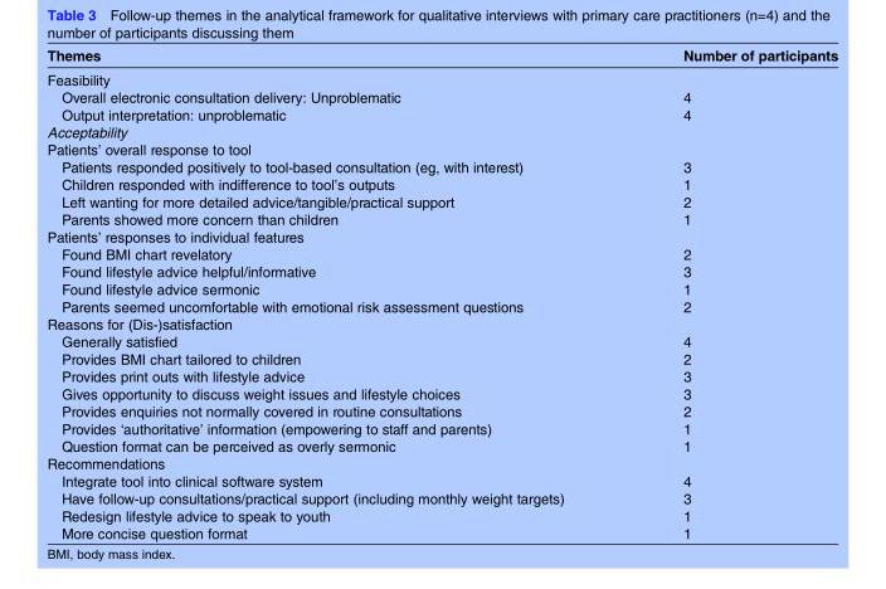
<table><thead><tr><td>Themes</td><td>Number of participants</td></tr></thead><tbody><tr><td colspan="2">Feasibility</td></tr><tr><td>Overall electronic consultation delivery: Unproblematic</td><td>4</td></tr><tr><td>Output interpretation: unproblematic</td><td>4</td></tr><tr><td colspan="2">Acceptability</td></tr><tr><td colspan="2">Patients’ overall response to tool</td></tr><tr><td>Patients responded positively to tool-based consultation (eg, with interest)</td><td>3</td></tr><tr><td>Children responded with indifference to tool’s outputs</td><td>1</td></tr><tr><td>Left wanting for more detailed advice/tangible/practical support</td><td>2</td></tr><tr><td>Parents showed more concern than children</td><td>1</td></tr><tr><td colspan="2">Patients’ responses to individual features</td></tr><tr><td>Found BMI chart revelatory</td><td>2</td></tr><tr><td>Found lifestyle advice helpful/informative</td><td>3</td></tr><tr><td>Found lifestyle advice sermonic</td><td>1</td></tr><tr><td>Parents seemed uncomfortable with emotional risk assessment questions</td><td>2</td></tr><tr><td colspan="2">Reasons for (Dis-)satisfaction</td></tr><tr><td>Generally satisfied</td><td>4</td></tr><tr><td>Provides BMI chart tailored to children</td><td>2</td></tr><tr><td>Provides print outs with lifestyle advice</td><td>3</td></tr><tr><td>Gives opportunity to discuss weight issues and lifestyle choices</td><td>3</td></tr><tr><td>Provides enquiries not normally covered in routine consultations</td><td>2</td></tr><tr><td>Provides ‘authoritative’ information (empowering to staff and parents)</td><td>1</td></tr><tr><td>Question format can be perceived as overly sermonic</td><td>1</td></tr><tr><td colspan="2">Recommendations</td></tr><tr><td>Integrate tool into clinical software system</td><td>4</td></tr><tr><td>Have follow-up consultations/practical support (including monthly weight targets)</td><td>3</td></tr><tr><td>Redesign lifestyle advice to speak to youth</td><td>1</td></tr><tr><td>More concise question format</td><td>1</td></tr></tbody></table>